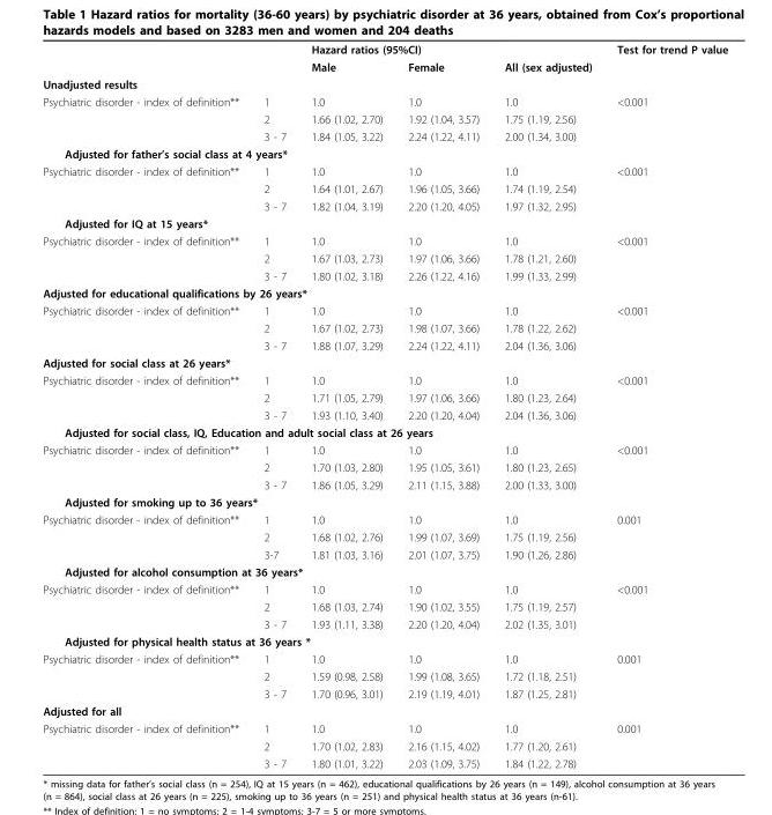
<table><thead><tr><td rowspan="2"></td><td rowspan="2"></td><td colspan="3">Hazard ratios (95%CI)</td><td rowspan="2">Test for trend P value</td></tr><tr><td>Male</td><td>Female</td><td>All (sex adjusted)</td></tr></thead><tbody><tr><td colspan="6">Unadjusted results</td></tr><tr><td rowspan="3">Psychiatric disorder - index of definition**</td><td>1</td><td>1.0</td><td>1.0</td><td>1.0</td><td>&lt;0.001</td></tr><tr><td>2</td><td>1.66 (1.02, 2.70)</td><td>1.92 (1.04, 3.57)</td><td>1.75 (1.19, 2.56)</td><td></td></tr><tr><td>3 - 7</td><td>1.84 (1.05, 3.22)</td><td>2.24 (1.22, 4.11)</td><td>2.00 (1.34, 3.00)</td><td></td></tr><tr><td colspan="6">Adjusted for father’s social class at 4 years*</td></tr><tr><td rowspan="3">Psychiatric disorder - index of definition**</td><td>1</td><td>1.0</td><td>1.0</td><td>1.0</td><td>&lt;0.001</td></tr><tr><td>2</td><td>1.64 (1.01, 2.67)</td><td>1.96 (1.05, 3.66)</td><td>1.74 (1.19, 2.54)</td><td></td></tr><tr><td>3 - 7</td><td>1.82 (1.04, 3.19)</td><td>2.20 (1.20, 4.05)</td><td>1.97 (1.32, 2.95)</td><td></td></tr><tr><td colspan="6">Adjusted for IQ at 15 years*</td></tr><tr><td rowspan="3">Psychiatric disorder - index of definition**</td><td>1</td><td>1.0</td><td>1.0</td><td>1.0</td><td>&lt;0.001</td></tr><tr><td>2</td><td>1.67 (1.03, 2.73)</td><td>1.97 (1.06, 3.66)</td><td>1.78 (1.21, 2.60)</td><td></td></tr><tr><td>3 - 7</td><td>1.80 (1.02, 3.18)</td><td>2.26 (1.22, 4.16)</td><td>1.99 (1.33, 2.99)</td><td></td></tr><tr><td colspan="6">Adjusted for educational qualifications by 26 years*</td></tr><tr><td rowspan="3">Psychiatric disorder - index of definition**</td><td>1</td><td>1.0</td><td>1.0</td><td>1.0</td><td>&lt;0.001</td></tr><tr><td>2</td><td>1.67 (1.02, 2.73)</td><td>1.98 (1.07, 3.66)</td><td>1.78 (1.22, 2.62)</td><td></td></tr><tr><td>3 - 7</td><td>1.88 (1.07, 3.29)</td><td>2.24 (1.22, 4.11)</td><td>2.04 (1.36, 3.06)</td><td></td></tr><tr><td colspan="6">Adjusted for social class at 26 years*</td></tr><tr><td rowspan="3">Psychiatric disorder - index of definition**</td><td>1</td><td>1.0</td><td>1.0</td><td>1.0</td><td>&lt;0.001</td></tr><tr><td>2</td><td>1.71 (1.05, 2.79)</td><td>1.97 (1.06, 3.66)</td><td>1.80 (1.23, 2.64)</td><td></td></tr><tr><td>3 - 7</td><td>1.93 (1.10, 3.40)</td><td>2.20 (1.20, 4.04)</td><td>2.04 (1.36, 3.06)</td><td></td></tr><tr><td colspan="6">Adjusted for social class, IQ, Education and adult social class at 26 years</td></tr><tr><td rowspan="3">Psychiatric disorder - index of definition**</td><td>1</td><td>1.0</td><td>1.0</td><td>1.0</td><td>&lt;0.001</td></tr><tr><td>2</td><td>1.70 (1.03, 2.80)</td><td>1.95 (1.05, 3.61)</td><td>1.80 (1.23, 2.65)</td><td></td></tr><tr><td>3 - 7</td><td>1.86 (1.05, 3.29)</td><td>2.11 (1.15, 3.88)</td><td>2.00 (1.33, 3.00)</td><td></td></tr><tr><td colspan="6">Adjusted for smoking up to 36 years*</td></tr><tr><td rowspan="3">Psychiatric disorder - index of definition**</td><td>1</td><td>1.0</td><td>1.0</td><td>1.0</td><td>0.001</td></tr><tr><td>2</td><td>1.68 (1.02, 2.76)</td><td>1.99 (1.07, 3.69)</td><td>1.75 (1.19, 2.56)</td><td></td></tr><tr><td>3-7</td><td>1.81 (1.03, 3.16)</td><td>2.01 (1.07, 3.75)</td><td>1.90 (1.26, 2.86)</td><td></td></tr><tr><td colspan="6">Adjusted for alcohol consumption at 36 years*</td></tr><tr><td rowspan="3">Psychiatric disorder - index of definition**</td><td>1</td><td>1.0</td><td>1.0</td><td>1.0</td><td>&lt;0.001</td></tr><tr><td>2</td><td>1.68 (1.03, 2.74)</td><td>1.90 (1.02, 3.55)</td><td>1.75 (1.19, 2.57)</td><td></td></tr><tr><td>3 - 7</td><td>1.93 (1.11, 3.38)</td><td>2.20 (1.20, 4.04)</td><td>2.02 (1.35, 3.01)</td><td></td></tr><tr><td colspan="6">Adjusted for physical health status at 36 years *</td></tr><tr><td rowspan="3">Psychiatric disorder - index of definition**</td><td>1</td><td>1.0</td><td>1.0</td><td>1.0</td><td>0.001</td></tr><tr><td>2</td><td>1.59 (0.98, 2.58)</td><td>1.99 (1.08, 3.65)</td><td>1.72 (1.18, 2.51)</td><td></td></tr><tr><td>3 - 7</td><td>1.70 (0.96, 3.01)</td><td>2.19 (1.19, 4.01)</td><td>1.87 (1.25, 2.81)</td><td></td></tr><tr><td colspan="6">Adjusted for all</td></tr><tr><td rowspan="3">Psychiatric disorder - index of definition**</td><td>1</td><td>1.0</td><td>1.0</td><td>1.0</td><td>0.001</td></tr><tr><td>2</td><td>1.70 (1.02, 2.83)</td><td>2.16 (1.15, 4.02)</td><td>1.77 (1.20, 2.61)</td><td></td></tr><tr><td>3 - 7</td><td>1.80 (1.01, 3.22)</td><td>2.03 (1.09, 3.75)</td><td>1.84 (1.22, 2.78)</td><td></td></tr></tbody></table>